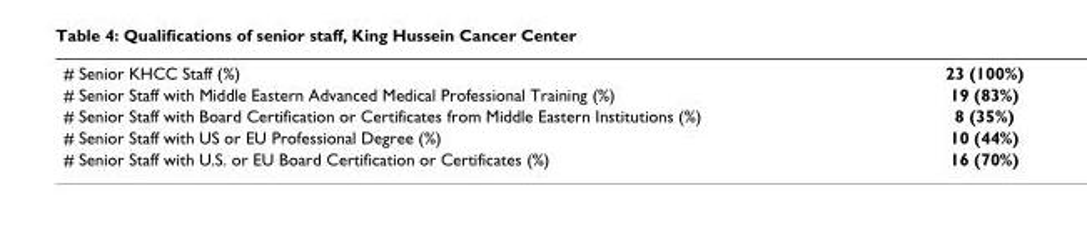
<table><tbody><tr><td># Senior KHCC Staff (%)</td><td>23 (100%)</td></tr><tr><td># Senior Staff with Middle Eastern Advanced Medical Professional Training (%)</td><td>19 (83%)</td></tr><tr><td># Senior Staff with Board Certification or Certificates from Middle Eastern Institutions (%)</td><td>8 (35%)</td></tr><tr><td># Senior Staff with US or EU Professional Degree (%)</td><td>10 (44%)</td></tr><tr><td># Senior Staff with U.S. or EU Board Certification or Certificates (%)</td><td>16 (70%)</td></tr></tbody></table>